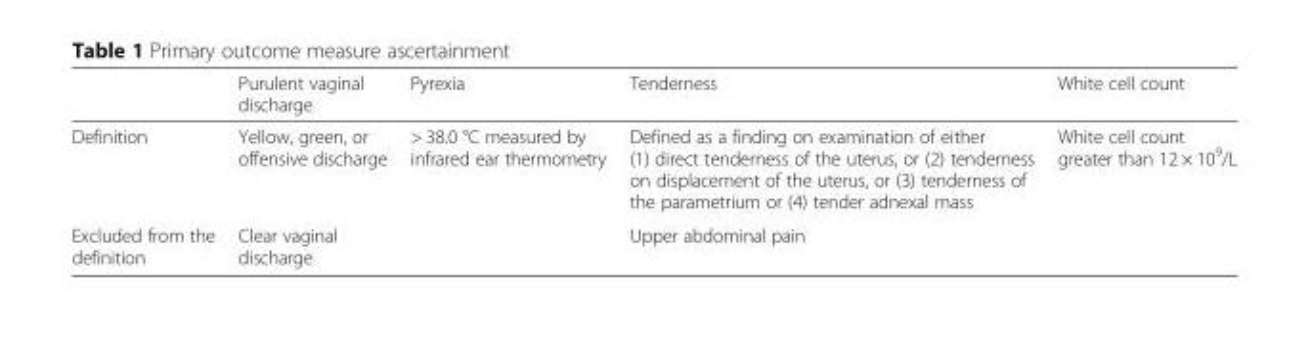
<table><thead><tr><td></td><td>Purulent vaginal discharge</td><td>Pyrexia</td><td>Tenderness</td><td>White cell count</td></tr></thead><tbody><tr><td>Definition</td><td>Yellow, green, or offensive discharge</td><td>&gt; 38.0 °C measured by infrared ear thermometry</td><td>Defined as a finding on examination of either (1) direct tenderness of the uterus, or (2) tenderness on displacement of the uterus, or (3) tenderness of the parametrium or (4) tender adnexal mass</td><td>White cell count greater than 12 × 10<sup>9</sup>/L</td></tr><tr><td>Excluded from the definition</td><td>Clear vaginal discharge</td><td></td><td>Upper abdominal pain</td><td></td></tr></tbody></table>